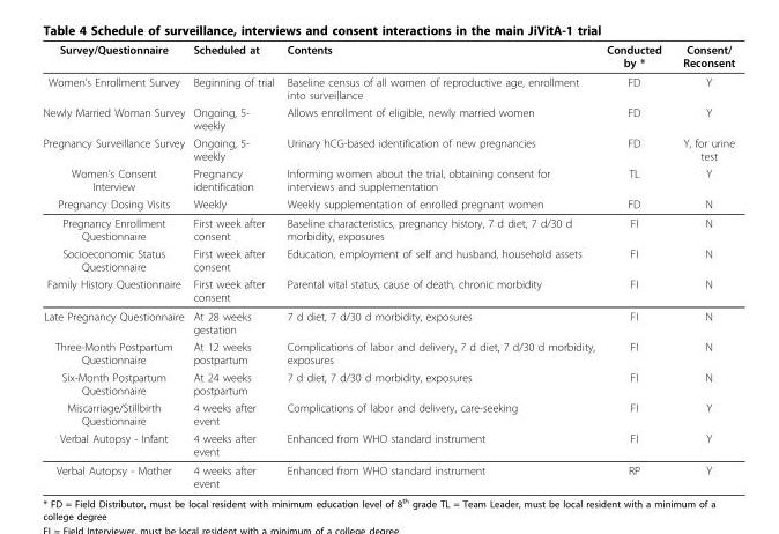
<table><thead><tr><td>Survey/Questionnaire</td><td>Scheduled at</td><td>Contents</td><td>Conducted by *</td><td>Consent/ Reconsent</td></tr></thead><tbody><tr><td>Women’s Enrollment Survey</td><td>Beginning of trial</td><td>Baseline census of all women of reproductive age, enrollment into surveillance</td><td>FD</td><td>Y</td></tr><tr><td>Newly Married Woman Survey</td><td>Ongoing, 5- weekly</td><td>Allows enrollment of eligible, newly married women</td><td>FD</td><td>Y</td></tr><tr><td>Pregnancy Surveillance Survey</td><td>Ongoing, 5- weekly</td><td>Urinary hCG-based identification of new pregnancies</td><td>FD</td><td>Y, for urine test</td></tr><tr><td>Women’s Consent Interview</td><td>Pregnancy identification</td><td>Informing women about the trial, obtaining consent for interviews and supplementation</td><td>TL</td><td>Y</td></tr><tr><td>Pregnancy Dosing Visits</td><td>Weekly</td><td>Weekly supplementation of enrolled pregnant women</td><td>FD</td><td>N</td></tr><tr><td>Pregnancy Enrollment Questionnaire</td><td>First week after consent</td><td>Baseline characteristics, pregnancy history, 7 d diet, 7 d/30 d morbidity, exposures</td><td>FI</td><td>N</td></tr><tr><td>Socioeconomic Status Questionnaire</td><td>First week after consent</td><td>Education, employment of self and husband, household assets</td><td>FI</td><td>N</td></tr><tr><td>Family History Questionnaire</td><td>First week after consent</td><td>Parental vital status, cause of death, chronic morbidity</td><td>FI</td><td>N</td></tr><tr><td>Late Pregnancy Questionnaire</td><td>At 28 weeks gestation</td><td>7 d diet, 7 d/30 d morbidity, exposures</td><td>FI</td><td>N</td></tr><tr><td>Three-Month Postpartum Questionnaire</td><td>At 12 weeks postpartum</td><td>Complications of labor and delivery, 7 d diet, 7 d/30 d morbidity, exposures</td><td>FI</td><td>N</td></tr><tr><td>Six-Month Postpartum Questionnaire</td><td>At 24 weeks postpartum</td><td>7 d diet, 7 d/30 d morbidity, exposures</td><td>FI</td><td>N</td></tr><tr><td>Miscarriage/Stillbirth Questionnaire</td><td>4 weeks after event</td><td>Complications of labor and delivery, care-seeking</td><td>FI</td><td>Y</td></tr><tr><td>Verbal Autopsy - Infant</td><td>4 weeks after event</td><td>Enhanced from WHO standard instrument</td><td>FI</td><td>Y</td></tr><tr><td>Verbal Autopsy - Mother</td><td>4 weeks after event</td><td>Enhanced from WHO standard instrument</td><td>RP</td><td>Y</td></tr></tbody></table>